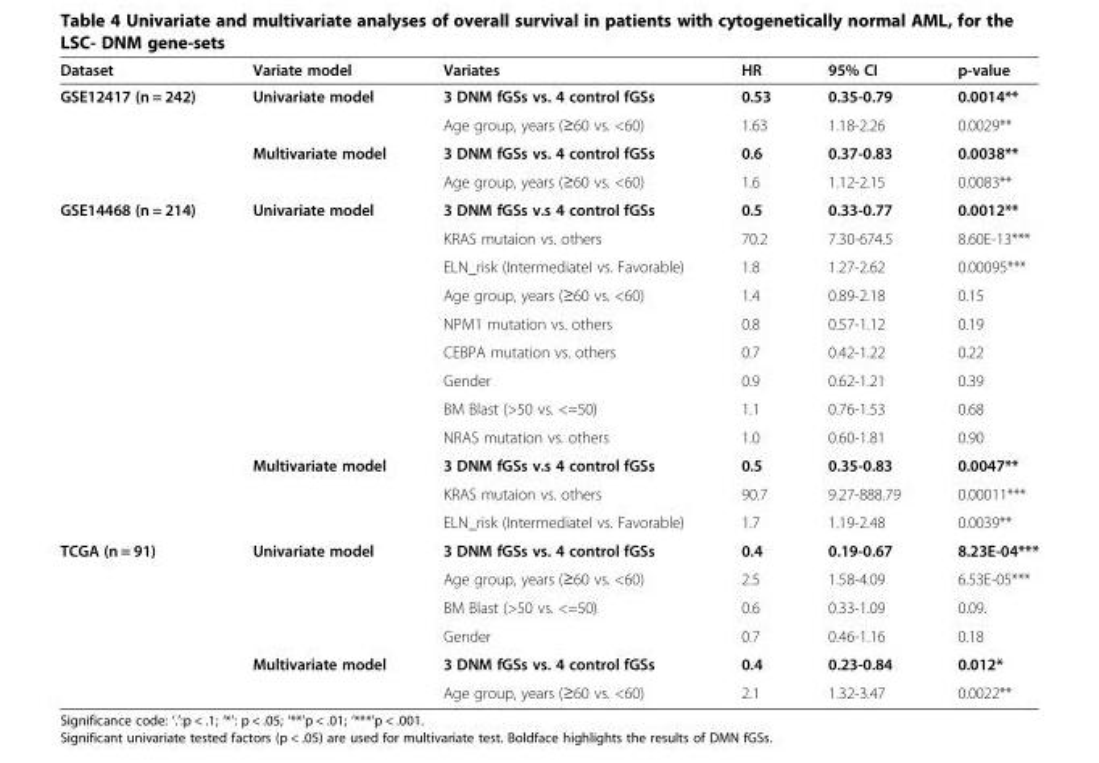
<table><thead><tr><td>Dataset</td><td>Variate model</td><td>Variates</td><td>HR</td><td>95% CI</td><td>p-value</td></tr></thead><tbody><tr><td rowspan="4">GSE12417 (n = 242)</td><td rowspan="2">Univariate model</td><td>3 DNM fGSs vs. 4 control fGSs</td><td>0.53</td><td>0.35-0.79</td><td>0.0014**</td></tr><tr><td>Age group, years (≥60 vs. &lt;60)</td><td>1.63</td><td>1.18-2.26</td><td>0.0029**</td></tr><tr><td rowspan="2">Multivariate model</td><td>3 DNM fGSs vs. 4 control fGSs</td><td>0.6</td><td>0.37-0.83</td><td>0.0038**</td></tr><tr><td>Age group, years (≥60 vs. &lt;60)</td><td>1.6</td><td>1.12-2.15</td><td>0.0083**</td></tr><tr><td rowspan="12">GSE14468 (n = 214)</td><td rowspan="9">Univariate model</td><td>3 DNM fGSs v.s 4 control fGSs</td><td>0.5</td><td>0.33-0.77</td><td>0.0012**</td></tr><tr><td>KRAS mutaion vs. others</td><td>70.2</td><td>7.30-674.5</td><td>8.60E-13***</td></tr><tr><td>ELN_risk (IntermediateI vs. Favorable)</td><td>1.8</td><td>1.27-2.62</td><td>0.00095***</td></tr><tr><td>Age group, years (≥60 vs. &lt;60)</td><td>1.4</td><td>0.89-2.18</td><td>0.15</td></tr><tr><td>NPM1 mutation vs. others</td><td>0.8</td><td>0.57-1.12</td><td>0.19</td></tr><tr><td>CEBPA mutation vs. others</td><td>0.7</td><td>0.42-1.22</td><td>0.22</td></tr><tr><td>Gender</td><td>0.9</td><td>0.62-1.21</td><td>0.39</td></tr><tr><td>BM Blast (&gt;50 vs. &lt;=50)</td><td>1.1</td><td>0.76-1.53</td><td>0.68</td></tr><tr><td>NRAS mutation vs. others</td><td>1.0</td><td>0.60-1.81</td><td>0.90</td></tr><tr><td rowspan="3">Multivariate model</td><td>3 DNM fGSs v.s 4 control fGSs</td><td>0.5</td><td>0.35-0.83</td><td>0.0047**</td></tr><tr><td>KRAS mutaion vs. others</td><td>90.7</td><td>9.27-888.79</td><td>0.00011***</td></tr><tr><td>ELN_risk (IntermediateI vs. Favorable)</td><td>1.7</td><td>1.19-2.48</td><td>0.0039**</td></tr><tr><td rowspan="6">TCGA (n = 91)</td><td rowspan="4">Univariate model</td><td>3 DNM fGSs vs. 4 control fGSs</td><td>0.4</td><td>0.19-0.67</td><td>8.23E-04***</td></tr><tr><td>Age group, years (≥60 vs. &lt;60)</td><td>2.5</td><td>1.58-4.09</td><td>6.53E-05***</td></tr><tr><td>BM Blast (&gt;50 vs. &lt;=50)</td><td>0.6</td><td>0.33-1.09</td><td>0.09.</td></tr><tr><td>Gender</td><td>0.7</td><td>0.46-1.16</td><td>0.18</td></tr><tr><td rowspan="2">Multivariate model</td><td>3 DNM fGSs vs. 4 control fGSs</td><td>0.4</td><td>0.23-0.84</td><td>0.012*</td></tr><tr><td>Age group, years (≥60 vs. &lt;60)</td><td>2.1</td><td>1.32-3.47</td><td>0.0022**</td></tr></tbody></table>